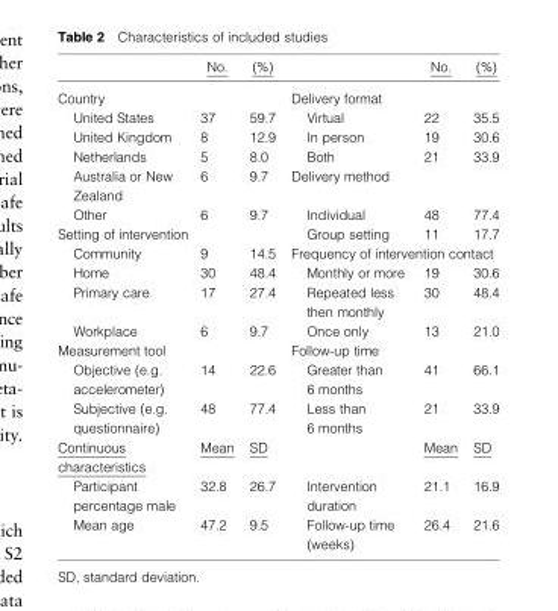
<table><thead><tr><td></td><td>No.</td><td>(%)</td><td></td><td>No.</td><td>(%)</td></tr></thead><tbody><tr><td colspan="3">Country</td><td colspan="3">Delivery format</td></tr><tr><td>United States</td><td>37</td><td>59.7</td><td>Virtual</td><td>22</td><td>35.5</td></tr><tr><td>United Kingdom</td><td>8</td><td>12.9</td><td>In person</td><td>19</td><td>30.6</td></tr><tr><td>Netherlands</td><td>5</td><td>8.0</td><td>Both</td><td>21</td><td>33.9</td></tr><tr><td>Australia or New Zealand</td><td>6</td><td>9.7</td><td colspan="3">Delivery method</td></tr><tr><td>Other</td><td>6</td><td>9.7</td><td>Individual</td><td>48</td><td>77.4</td></tr><tr><td colspan="3">Setting of intervention</td><td>Group setting</td><td>11</td><td>17.7</td></tr><tr><td>Community</td><td>9</td><td>14.5</td><td colspan="3">Frequency of intervention contact</td></tr><tr><td>Home</td><td>30</td><td>48.4</td><td>Monthly or more</td><td>19</td><td>30.6</td></tr><tr><td>Primary care</td><td>17</td><td>27.4</td><td>Repeated less then monthly</td><td>30</td><td>48.4</td></tr><tr><td>Workplace</td><td>6</td><td>9.7</td><td>Once only</td><td>13</td><td>21.0</td></tr><tr><td colspan="3">Measurement tool</td><td colspan="3">Follow-up time</td></tr><tr><td>Objective (e.g. accelerometer)</td><td>14</td><td>22.6</td><td>Greater than 6 months</td><td>41</td><td>66.1</td></tr><tr><td>Subjective (e.g. questionnaire)</td><td>48</td><td>77.4</td><td>Less than 6 months</td><td>21</td><td>33.9</td></tr><tr><td>Continuous characteristics</td><td>Mean</td><td>SD</td><td></td><td>Mean</td><td>SD</td></tr><tr><td>Participant percentage male</td><td>32.8</td><td>26.7</td><td>Intervention duration</td><td>21.1</td><td>16.9</td></tr><tr><td>Mean age</td><td>47.2</td><td>9.5</td><td>Follow-up time (weeks)</td><td>26.4</td><td>21.6</td></tr></tbody></table>